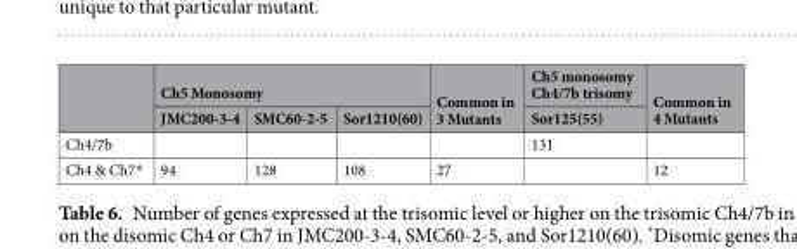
<table><thead><tr><td rowspan="2"></td><td colspan="3">Ch5 Monosomy</td><td rowspan="2">Common in 3 Mutants</td><td rowspan="2">Ch5 monosomy Ch4/7b trisomy Sor125(55)</td><td rowspan="2">Common in 4 Mutants</td></tr><tr><td>JMC200-3-4</td><td>SMC60-2-5</td><td>Sor1210(60)</td></tr></thead><tbody><tr><td>Ch4/7b</td><td></td><td></td><td></td><td></td><td>131</td><td></td></tr><tr><td>Ch4 &amp; Ch7*</td><td>94</td><td>128</td><td>108</td><td>27</td><td></td><td>12</td></tr></tbody></table>